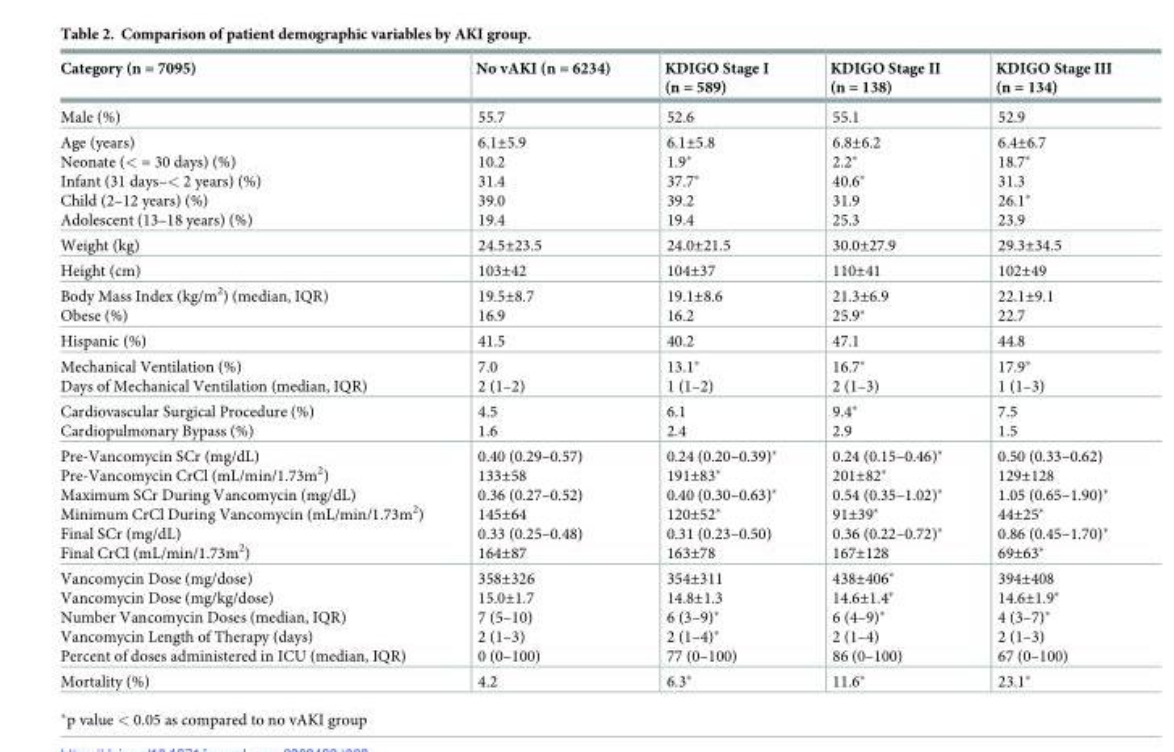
<table><thead><tr><td>Category (n = 7095)</td><td>No vAKI (n = 6234)</td><td>KDIGO Stage I (n = 589)</td><td>KDIGO Stage II (n = 138)</td><td>KDIGO Stage III (n = 134)</td></tr></thead><tbody><tr><td>Male (%)</td><td>55.7</td><td>52.6</td><td>55.1</td><td>52.9</td></tr><tr><td>Age (years) Neonate (&lt; = 30 days) (%) Infant (31 days–&lt; 2 years) (%) Child (2–12 years) (%) Adolescent (13–18 years) (%)</td><td>6.1±5.9 10.2 31.4 39.0 19.4</td><td>6.1±5.8 1.9* 37.7* 39.2 19.4</td><td>6.8±6.2 2.2* 40.6* 31.9 25.3</td><td>6.4±6.7 18.7* 31.3 26.1* 23.9</td></tr><tr><td>Weight (kg)</td><td>24.5±23.5</td><td>24.0±21.5</td><td>30.0±27.9</td><td>29.3±34.5</td></tr><tr><td>Height (cm)</td><td>103±42</td><td>104±37</td><td>110±41</td><td>102±49</td></tr><tr><td>Body Mass Index (kg/m<sup>2</sup>) (median, IQR) Obese (%)</td><td>19.5±8.7 16.9</td><td>19.1±8.6 16.2</td><td>21.3±6.9 25.9*</td><td>22.1±9.1 22.7</td></tr><tr><td>Hispanic (%)</td><td>41.5</td><td>40.2</td><td>47.1</td><td>44.8</td></tr><tr><td>Mechanical Ventilation (%) Days of Mechanical Ventilation (median, IQR)</td><td>7.0 2 (1–2)</td><td>13.1* 1 (1–2)</td><td>16.7* 2 (1–3)</td><td>17.9* 1 (1–3)</td></tr><tr><td>Cardiovascular Surgical Procedure (%) Cardiopulmonary Bypass (%)</td><td>4.5 1.6</td><td>6.1 2.4</td><td>9.4* 2.9</td><td>7.5 1.5</td></tr><tr><td>Pre-Vancomycin SCr (mg/dL) Pre-Vancomycin CrCl (mL/min/1.73m<sup>2</sup>) Maximum SCr During Vancomycin (mg/dL) Minimum CrCl During Vancomycin (mL/min/1.73m<sup>2</sup>) Final SCr (mg/dL) Final CrCl (mL/min/1.73m<sup>2</sup>)</td><td>0.40 (0.29–0.57) 133±58 0.36 (0.27–0.52) 145±64 0.33 (0.25–0.48) 164±87</td><td>0.24 (0.20–0.39)* 191±83* 0.40 (0.30–0.63)* 120±52* 0.31 (0.23–0.50) 163±78</td><td>0.24 (0.15–0.46)* 201±82* 0.54 (0.35–1.02)* 91±39* 0.36 (0.22–0.72)* 167±128</td><td>0.50 (0.33–0.62) 129±128 1.05 (0.65–1.90)* 44±25* 0.86 (0.45–1.70)* 69±63*</td></tr><tr><td>Vancomycin Dose (mg/dose) Vancomycin Dose (mg/kg/dose) Number Vancomycin Doses (median, IQR) Vancomycin Length of Therapy (days) Percent of doses administered in ICU (median, IQR)</td><td>358±326 15.0±1.7 7 (5–10) 2 (1–3) 0 (0–100)</td><td>354±311 14.8±1.3 6 (3–9)* 2 (1–4)* 77 (0–100)</td><td>438±406* 14.6±1.4* 6 (4–9)* 2 (1–4) 86 (0–100)</td><td>394±408 14.6±1.9* 4 (3–7)* 2 (1–3) 67 (0–100)</td></tr><tr><td>Mortality (%)</td><td>4.2</td><td>6.3*</td><td>11.6*</td><td>23.1*</td></tr></tbody></table>